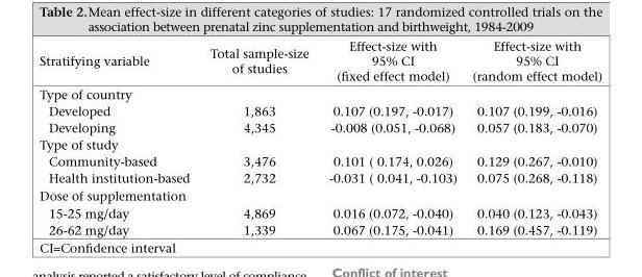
<table><thead><tr><td>Stratifying variable</td><td>Total sample-size of studies</td><td>Effect-size with 95% CI (fixed effect model)</td><td>Effect-size with 95% CI (random effect model)</td></tr></thead><tbody><tr><td colspan="4">Type of country</td></tr><tr><td>Developed</td><td>1,863</td><td>0.107 (0.197, -0.017)</td><td>0.107 (0.199, -0.016)</td></tr><tr><td>Developing</td><td>4,345</td><td>-0.008 (0.051, -0.068)</td><td>0.057 (0.183, -0.070)</td></tr><tr><td colspan="4">Type of study</td></tr><tr><td>Community-based</td><td>3,476</td><td>0.101 ( 0.174, 0.026)</td><td>0.129 (0.267, -0.010)</td></tr><tr><td>Health institution-based</td><td>2,732</td><td>-0.031 ( 0.041, -0.103)</td><td>0.075 (0.268, -0.118)</td></tr><tr><td colspan="4">Dose of supplementation</td></tr><tr><td>15-25 mg/day</td><td>4,869</td><td>0.016 (0.072, -0.040)</td><td>0.040 (0.123, -0.043)</td></tr><tr><td>26-62 mg/day</td><td>1,339</td><td>0.067 (0.175, -0.041)</td><td>0.169 (0.457, -0.119)</td></tr></tbody></table>